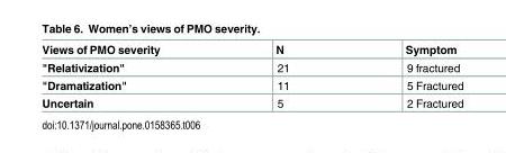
<table><thead><tr><td>Views of PMO severity</td><td>N</td><td>Symptom</td></tr></thead><tbody><tr><td>&quot;Relativization&quot;</td><td>21</td><td>9 fractured</td></tr><tr><td>&quot;Dramatization&quot;</td><td>11</td><td>5 Fractured</td></tr><tr><td>Uncertain</td><td>5</td><td>2 Fractured</td></tr></tbody></table>